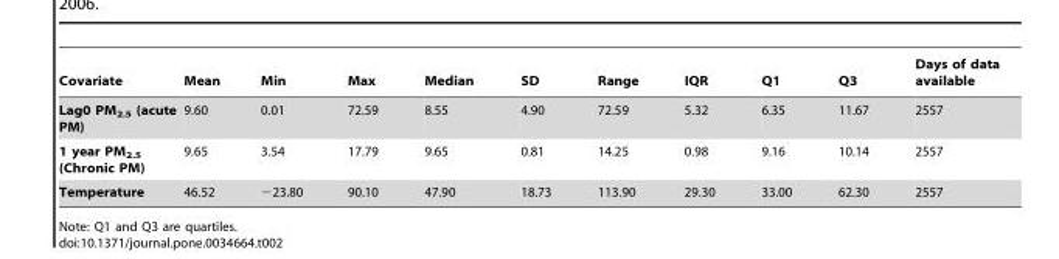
<table><thead><tr><td>Covariate</td><td>Mean</td><td>Min</td><td>Max</td><td>Median</td><td>SD</td><td>Range</td><td>IQR</td><td>Q1</td><td>Q3</td><td>Days of data available</td></tr></thead><tbody><tr><td>Lag0 PM<sub>2.5</sub> (acute PM)</td><td>9.60</td><td>0.01</td><td>72.59</td><td>8.55</td><td>4.90</td><td>72.59</td><td>5.32</td><td>6.35</td><td>11.67</td><td>2557</td></tr><tr><td>1 year PM<sub>2.5</sub> (Chronic PM)</td><td>9.65</td><td>3.54</td><td>17.79</td><td>9.65</td><td>0.81</td><td>14.25</td><td>0.98</td><td>9.16</td><td>10.14</td><td>2557</td></tr><tr><td>Temperature</td><td>46.52</td><td>−23.80</td><td>90.10</td><td>47.90</td><td>18.73</td><td>113.90</td><td>29.30</td><td>33.00</td><td>62.30</td><td>2557</td></tr></tbody></table>